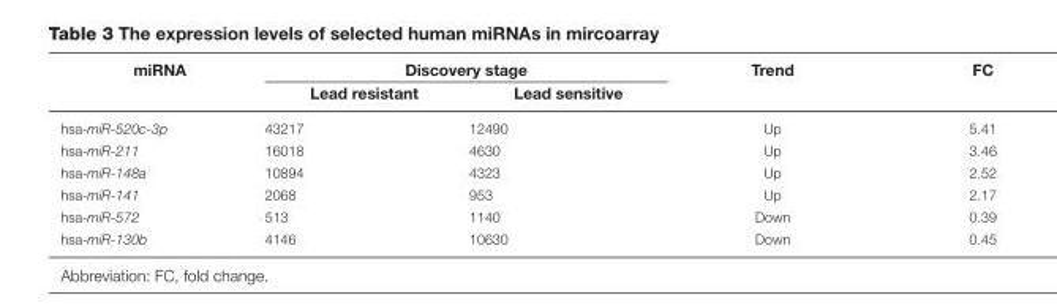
<table><thead><tr><td rowspan="2">miRNA</td><td colspan="2">Discovery stage</td><td rowspan="2">Trend</td><td rowspan="2">FC</td></tr><tr><td>Lead resistant</td><td>Lead sensitive</td></tr></thead><tbody><tr><td>hsa-miR-520c-3p</td><td>43217</td><td>12490</td><td>Up</td><td>5.41</td></tr><tr><td>hsa-miR-211</td><td>16018</td><td>4630</td><td>Up</td><td>3.46</td></tr><tr><td>hsa-miR-148a</td><td>10894</td><td>4323</td><td>Up</td><td>2.52</td></tr><tr><td>hsa-miR-141</td><td>2068</td><td>953</td><td>Up</td><td>2.17</td></tr><tr><td>hsa-miR-572</td><td>513</td><td>1140</td><td>Down</td><td>0.39</td></tr><tr><td>hsa-miR-130b</td><td>4146</td><td>10630</td><td>Down</td><td>0.45</td></tr></tbody></table>